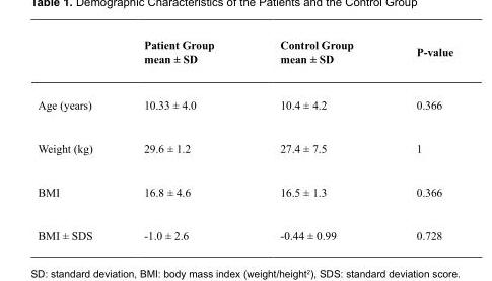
<table><thead><tr><td></td><td>Patient Group mean ± SD</td><td>Control Group mean ± SD</td><td>P-value</td></tr></thead><tbody><tr><td>Age (years)</td><td>10.33 ± 4.0</td><td>10.4 ± 4.2</td><td>0.366</td></tr><tr><td>Weight (kg)</td><td>29.6 ± 1.2</td><td>27.4 ± 7.5</td><td>1</td></tr><tr><td>BMI</td><td>16.8 ± 4.6</td><td>16.5 ± 1.3</td><td>0.366</td></tr><tr><td>BMI ± SDS</td><td>-1.0 ± 2.6</td><td>-0.44 ± 0.99</td><td>0.728</td></tr></tbody></table>